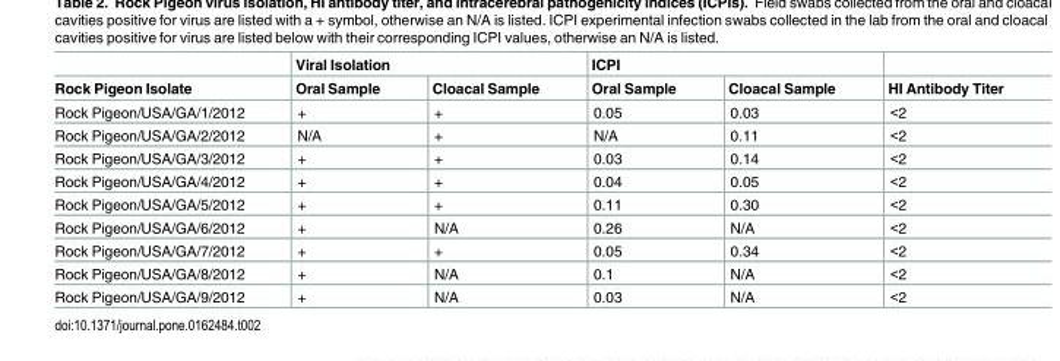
<table><thead><tr><td rowspan="2">Rock Pigeon Isolate</td><td colspan="2">Viral Isolation</td><td colspan="2">ICPI</td><td rowspan="2">HI Antibody Titer</td></tr><tr><td>Oral Sample</td><td>Cloacal Sample</td><td>Oral Sample</td><td>Cloacal Sample</td></tr></thead><tbody><tr><td>Rock Pigeon/USA/GA/1/2012</td><td>+</td><td>+</td><td>0.05</td><td>0.03</td><td>&lt;2</td></tr><tr><td>Rock Pigeon/USA/GA/2/2012</td><td>N/A</td><td>+</td><td>N/A</td><td>0.11</td><td>&lt;2</td></tr><tr><td>Rock Pigeon/USA/GA/3/2012</td><td>+</td><td>+</td><td>0.03</td><td>0.14</td><td>&lt;2</td></tr><tr><td>Rock Pigeon/USA/GA/4/2012</td><td>+</td><td>+</td><td>0.04</td><td>0.05</td><td>&lt;2</td></tr><tr><td>Rock Pigeon/USA/GA/5/2012</td><td>+</td><td>+</td><td>0.11</td><td>0.30</td><td>&lt;2</td></tr><tr><td>Rock Pigeon/USA/GA/6/2012</td><td>+</td><td>N/A</td><td>0.26</td><td>N/A</td><td>&lt;2</td></tr><tr><td>Rock Pigeon/USA/GA/7/2012</td><td>+</td><td>+</td><td>0.05</td><td>0.34</td><td>&lt;2</td></tr><tr><td>Rock Pigeon/USA/GA/8/2012</td><td>+</td><td>N/A</td><td>0.1</td><td>N/A</td><td>&lt;2</td></tr><tr><td>Rock Pigeon/USA/GA/9/2012</td><td>+</td><td>N/A</td><td>0.03</td><td>N/A</td><td>&lt;2</td></tr></tbody></table>